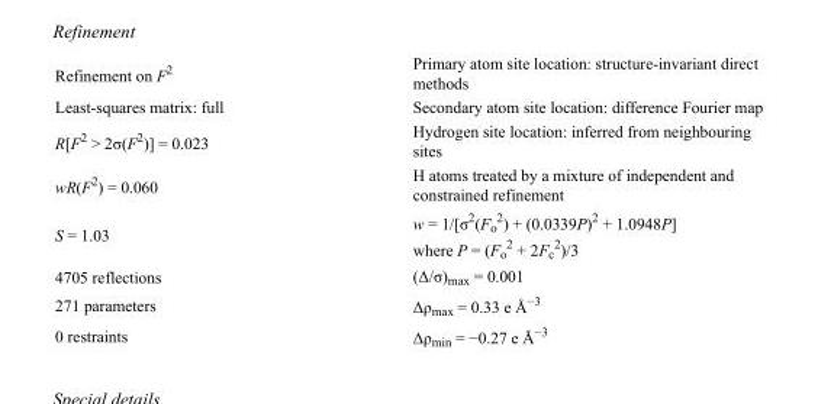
<table><tbody><tr><td>Refinement on F<sup>2</sup></td><td>Primary atom site location: structure-invariant direct methods</td></tr><tr><td>Least-squares matrix: full</td><td>Secondary atom site location: difference Fourier map</td></tr><tr><td>R[F<sup>2</sup> &gt; 2σ(F<sup>2</sup>)] = 0.023</td><td>Hydrogen site location: inferred from neighbouring sites</td></tr><tr><td>wR(F<sup>2</sup>) = 0.060</td><td>H atoms treated by a mixture of independent and constrained refinement</td></tr><tr><td>S = 1.03</td><td>w = 1/[σ<sup>2</sup>(F<sub>o</sub> <sup>2</sup>) + (0.0339P)<sup>2</sup> + 1.0948P] where P = (F<sub>o</sub> <sup>2</sup> + 2F<sub>c</sub> <sup>2</sup>)/3</td></tr><tr><td>4705 reflections</td><td>(Δ/σ)<sub>max</sub> = 0.001</td></tr><tr><td>271 parameters</td><td>Δρ<sub>max</sub> = 0.33 e Å<sup>−3</sup></td></tr><tr><td>0 restraints</td><td>Δρ<sub>min</sub> = −0.27 e Å<sup>−3</sup></td></tr></tbody></table>